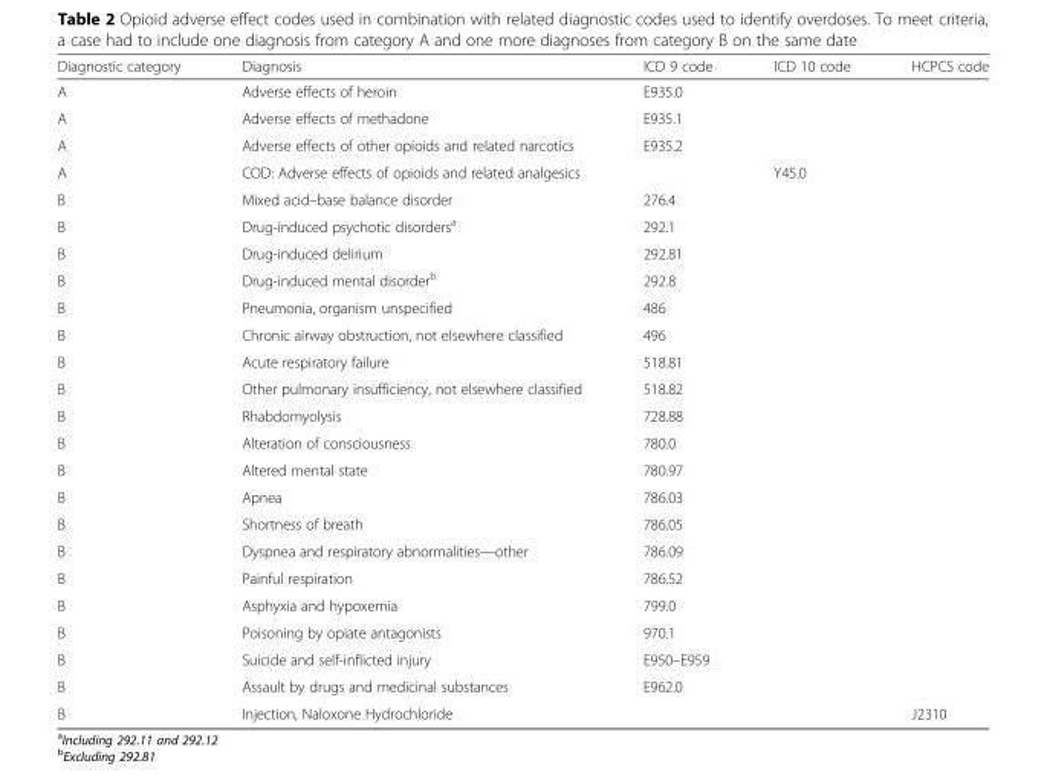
<table><thead><tr><td>Diagnostic category</td><td>Diagnosis</td><td>ICD 9 code</td><td>ICD 10 code</td><td>HCPCS code</td></tr></thead><tbody><tr><td>A</td><td>Adverse effects of heroin</td><td>E935.0</td><td></td><td></td></tr><tr><td>A</td><td>Adverse effects of methadone</td><td>E935.1</td><td></td><td></td></tr><tr><td>A</td><td>Adverse effects of other opioids and related narcotics</td><td>E935.2</td><td></td><td></td></tr><tr><td>A</td><td>COD: Adverse effects of opioids and related analgesics</td><td></td><td>Y45.0</td><td></td></tr><tr><td>B</td><td>Mixed acid–base balance disorder</td><td>276.4</td><td></td><td></td></tr><tr><td>B</td><td>Drug-induced psychotic disorders<sup>a</sup></td><td>292.1</td><td></td><td></td></tr><tr><td>B</td><td>Drug-induced delirium</td><td>292.81</td><td></td><td></td></tr><tr><td>B</td><td>Drug-induced mental disorder<sup>b</sup></td><td>292.8</td><td></td><td></td></tr><tr><td>B</td><td>Pneumonia, organism unspecified</td><td>486</td><td></td><td></td></tr><tr><td>B</td><td>Chronic airway obstruction, not elsewhere classified</td><td>496</td><td></td><td></td></tr><tr><td>B</td><td>Acute respiratory failure</td><td>518.81</td><td></td><td></td></tr><tr><td>B</td><td>Other pulmonary insufficiency, not elsewhere classified</td><td>518.82</td><td></td><td></td></tr><tr><td>B</td><td>Rhabdomyolysis</td><td>728.88</td><td></td><td></td></tr><tr><td>B</td><td>Alteration of consciousness</td><td>780.0</td><td></td><td></td></tr><tr><td>B</td><td>Altered mental state</td><td>780.97</td><td></td><td></td></tr><tr><td>B</td><td>Apnea</td><td>786.03</td><td></td><td></td></tr><tr><td>B</td><td>Shortness of breath</td><td>786.05</td><td></td><td></td></tr><tr><td>B</td><td>Dyspnea and respiratory abnormalities—other</td><td>786.09</td><td></td><td></td></tr><tr><td>B</td><td>Painful respiration</td><td>786.52</td><td></td><td></td></tr><tr><td>B</td><td>Asphyxia and hypoxemia</td><td>799.0</td><td></td><td></td></tr><tr><td>B</td><td>Poisoning by opiate antagonists</td><td>970.1</td><td></td><td></td></tr><tr><td>B</td><td>Suicide and self-inflicted injury</td><td>E950–E959</td><td></td><td></td></tr><tr><td>B</td><td>Assault by drugs and medicinal substances</td><td>E962.0</td><td></td><td></td></tr><tr><td>B</td><td>Injection, Naloxone Hydrochloride</td><td></td><td></td><td>J2310</td></tr></tbody></table>